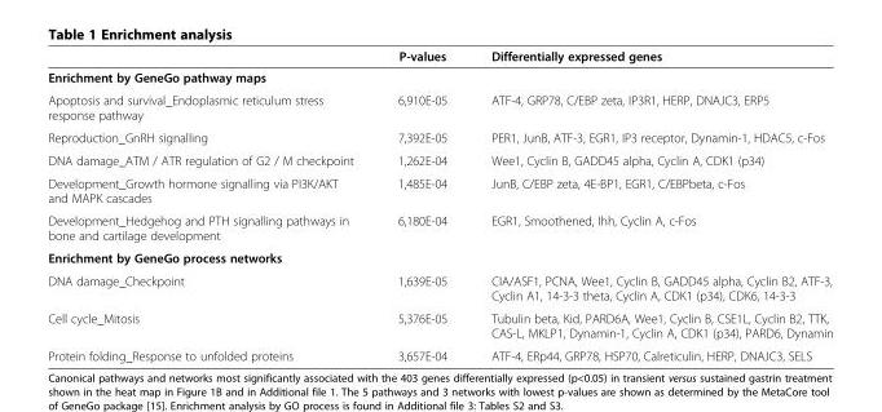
<table><thead><tr><td></td><td>P-values</td><td>Differentially expressed genes</td></tr></thead><tbody><tr><td colspan="3">Enrichment by GeneGo pathway maps</td></tr><tr><td>Apoptosis and survival_Endoplasmic reticulum stress response pathway</td><td>6,910E-05</td><td>ATF-4, GRP78, C/EBP zeta, IP3R1, HERP, DNAJC3, ERP5</td></tr><tr><td>Reproduction_GnRH signalling</td><td>7,392E-05</td><td>PER1, JunB, ATF-3, EGR1, IP3 receptor, Dynamin-1, HDAC5, c-Fos</td></tr><tr><td>DNA damage_ATM / ATR regulation of G2 / M checkpoint</td><td>1,262E-04</td><td>Wee1, Cyclin B, GADD45 alpha, Cyclin A, CDK1 (p34)</td></tr><tr><td>Development_Growth hormone signalling via PI3K/AKT and MAPK cascades</td><td>1,485E-04</td><td>JunB, C/EBP zeta, 4E-BP1, EGR1, C/EBPbeta, c-Fos</td></tr><tr><td>Development_Hedgehog and PTH signalling pathways in bone and cartilage development</td><td>6,180E-04</td><td>EGR1, Smoothened, Ihh, Cyclin A, c-Fos</td></tr><tr><td colspan="3">Enrichment by GeneGo process networks</td></tr><tr><td>DNA damage_Checkpoint</td><td>1,639E-05</td><td>CIA/ASF1, PCNA, Wee1, Cyclin B, GADD45 alpha, Cyclin B2, ATF-3, Cyclin A1, 14-3-3 theta, Cyclin A, CDK1 (p34), CDK6, 14-3-3</td></tr><tr><td>Cell cycle_Mitosis</td><td>5,376E-05</td><td>Tubulin beta, Kid, PARD6A, Wee1, Cyclin B, CSE1L, Cyclin B2, TTK, CAS-L, MKLP1, Dynamin-1, Cyclin A, CDK1 (p34), PARD6, Dynamin</td></tr><tr><td>Protein folding_Response to unfolded proteins</td><td>3,657E-04</td><td>ATF-4, ERp44, GRP78, HSP70, Calreticulin, HERP, DNAJC3, SELS</td></tr></tbody></table>